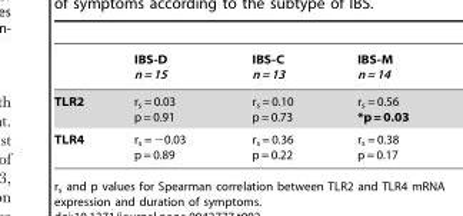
<table><thead><tr><td></td><td>IBS-D n = 15</td><td>IBS-C n = 13</td><td>IBS-M n = 14</td></tr></thead><tbody><tr><td>TLR2</td><td>r<sub>s</sub> = 0.03 p = 0.91</td><td>r<sub>s</sub> = 0.10 p = 0.73</td><td>r<sub>s</sub> = 0.56 *p = 0.03</td></tr><tr><td>TLR4</td><td>r<sub>s</sub> = −0.03 p = 0.89</td><td>r<sub>s</sub> = 0.36 p = 0.22</td><td>r<sub>s</sub> = 0.38 p = 0.17</td></tr></tbody></table>